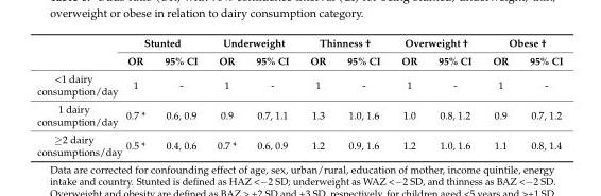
<table><thead><tr><td rowspan="2"></td><td colspan="2">Stunted</td><td colspan="2">Underweight</td><td colspan="2">Thinness †</td><td colspan="2">Overweight †</td><td colspan="2">Obese †</td></tr><tr><td>OR</td><td>95% CI</td><td>OR</td><td>95% CI</td><td>OR</td><td>95% CI</td><td>OR</td><td>95% CI</td><td>OR</td><td>95% CI</td></tr></thead><tbody><tr><td>&lt;1 dairy consumption/day</td><td>1</td><td>-</td><td>1</td><td>-</td><td>1</td><td>-</td><td>1</td><td>-</td><td>1</td><td>-</td></tr><tr><td>1 dairy consumption/day</td><td>0.7 *</td><td>0.6, 0.9</td><td>0.9</td><td>0.7, 1.1</td><td>1.3</td><td>1.0, 1.6</td><td>1.0</td><td>0.8, 1.2</td><td>0.9</td><td>0.7, 1.2</td></tr><tr><td>≥2 dairy consumptions/day</td><td>0.5 *</td><td>0.4, 0.6</td><td>0.7 *</td><td>0.6, 0.9</td><td>1.2</td><td>0.9, 1.6</td><td>1.2</td><td>1.0, 1.6</td><td>1.1</td><td>0.8, 1.4</td></tr></tbody></table>